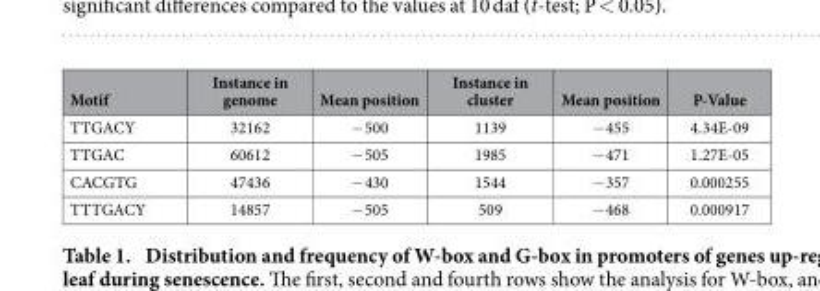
<table><thead><tr><td>Motif</td><td>Instance in genome</td><td>Mean position</td><td>Instance in cluster</td><td>Mean position</td><td>P-Value</td></tr></thead><tbody><tr><td>TTGACY</td><td>32162</td><td>− 500</td><td>1139</td><td>− 455</td><td>4.34E-09</td></tr><tr><td>TTGAC</td><td>60612</td><td>− 505</td><td>1985</td><td>− 471</td><td>1.27E-05</td></tr><tr><td>CACGTG</td><td>47436</td><td>− 430</td><td>1544</td><td>− 357</td><td>0.000255</td></tr><tr><td>TTTGACY</td><td>14857</td><td>− 505</td><td>509</td><td>− 468</td><td>0.000917</td></tr></tbody></table>